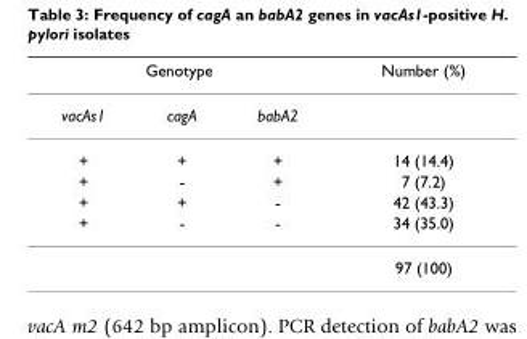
<table><thead><tr><td colspan="3">Genotype</td><td rowspan="2">Number (%)</td></tr><tr><td>vacAs1</td><td>cagA</td><td>babA2</td></tr></thead><tbody><tr><td>+</td><td>+</td><td>+</td><td>14 (14.4)</td></tr><tr><td>+</td><td>-</td><td>+</td><td>7 (7.2)</td></tr><tr><td>+</td><td>+</td><td>-</td><td>42 (43.3)</td></tr><tr><td rowspan="2">+</td><td>-</td><td>-</td><td>34 (35.0)</td></tr><tr><td></td><td></td><td>97 (100)</td></tr></tbody></table>